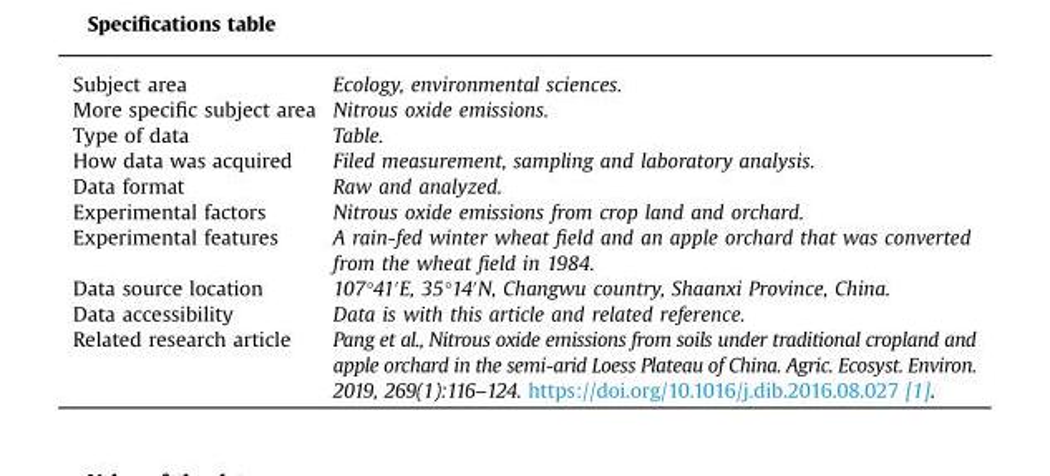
<table><tbody><tr><td>Subject area</td><td>Ecology, environmental sciences.</td></tr><tr><td>More specific subject area</td><td>Nitrous oxide emissions.</td></tr><tr><td>Type of data</td><td>Table.</td></tr><tr><td>How data was acquired</td><td>Filed measurement, sampling and laboratory analysis.</td></tr><tr><td>Data format</td><td>Raw and analyzed.</td></tr><tr><td>Experimental factors</td><td>Nitrous oxide emissions from crop land and orchard.</td></tr><tr><td>Experimental features</td><td>A rain-fed winter wheat field and an apple orchard that was converted from the wheat field in 1984.</td></tr><tr><td>Data source location</td><td>107°41′E, 35°14′N, Changwu country, Shaanxi Province, China.</td></tr><tr><td>Data accessibility</td><td>Data is with this article and related reference.</td></tr><tr><td>Related research article</td><td>Pang et al., Nitrous oxide emissions from soils under traditional cropland and apple orchard in the semi-arid Loess Plateau of China. Agric. Ecosyst. Environ. 2019, 269(1):116–124. https://doi.org/10.1016/j.dib.2016.08.027 [1].</td></tr></tbody></table>